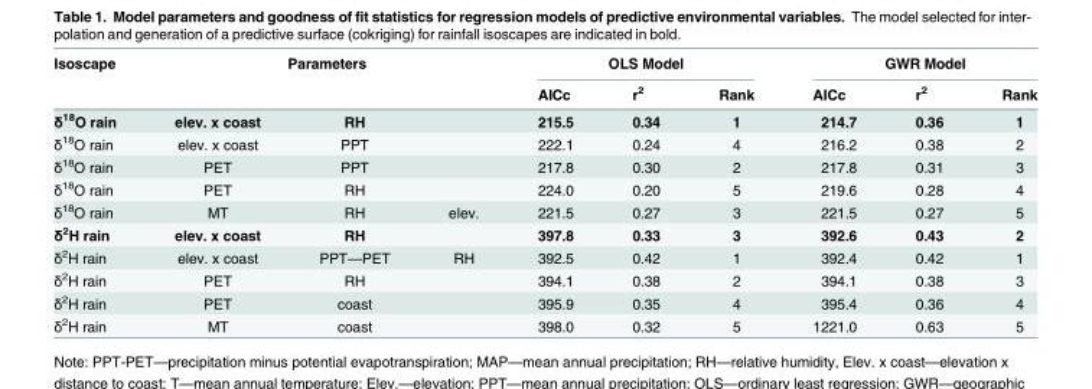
<table><thead><tr><td rowspan="3">Isoscape δ18O rain</td><td rowspan="2" colspan="3">Parameters</td><td colspan="3">OLS Model</td><td colspan="3">GWR Model</td></tr><tr><td rowspan="2">AICc 215.5</td><td rowspan="2">r<sup>2</sup> 0.34</td><td rowspan="2">Rank 1</td><td rowspan="2">AICc 214.7</td><td rowspan="2">r2 0.36</td><td rowspan="2">Rank 1</td></tr><tr><td>elev. x coast</td><td>RH</td><td></td></tr></thead><tbody><tr><td>δ18O rain</td><td>elev. x coast</td><td>PPT</td><td></td><td>222.1</td><td>0.24</td><td>4</td><td>216.2</td><td>0.38</td><td>2</td></tr><tr><td>δ18O rain</td><td>PET</td><td>PPT</td><td></td><td>217.8</td><td>0.30</td><td>2</td><td>217.8</td><td>0.31</td><td>3</td></tr><tr><td>δ18O rain</td><td>PET</td><td>RH</td><td></td><td>224.0</td><td>0.20</td><td>5</td><td>219.6</td><td>0.28</td><td>4</td></tr><tr><td>δ18O rain</td><td>MT</td><td>RH</td><td>elev.</td><td>221.5</td><td>0.27</td><td>3</td><td>221.5</td><td>0.27</td><td>5</td></tr><tr><td>δ<sup>2</sup>H rain</td><td>elev. x coast</td><td>RH</td><td></td><td>397.8</td><td>0.33</td><td>3</td><td>392.6</td><td>0.43</td><td>2</td></tr><tr><td>δ<sup>2</sup>H rain</td><td>elev. x coast</td><td>PPT—PET</td><td>RH</td><td>392.5</td><td>0.42</td><td>1</td><td>392.4</td><td>0.42</td><td>1</td></tr><tr><td>δ<sup>2</sup>H rain</td><td>PET</td><td>RH</td><td></td><td>394.1</td><td>0.38</td><td>2</td><td>394.1</td><td>0.38</td><td>3</td></tr><tr><td>δ<sup>2</sup>H rain</td><td>PET</td><td>coast</td><td></td><td>395.9</td><td>0.35</td><td>4</td><td>395.4</td><td>0.36</td><td>4</td></tr><tr><td>δ<sup>2</sup>H rain</td><td>MT</td><td>coast</td><td></td><td>398.0</td><td>0.32</td><td>5</td><td>1221.0</td><td>0.63</td><td>5</td></tr></tbody></table>